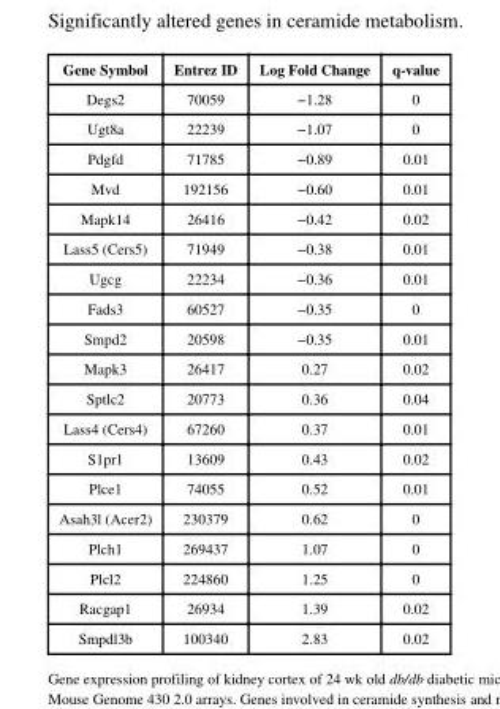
<table><thead><tr><td>Gene Symbol</td><td>Entrez ID</td><td>Log Fold Change</td><td>q-value</td></tr></thead><tbody><tr><td>Degs2</td><td>70059</td><td>−1.28</td><td>0</td></tr><tr><td>Ugt8a</td><td>22239</td><td>−1.07</td><td>0</td></tr><tr><td>Pdgfd</td><td>71785</td><td>−0.89</td><td>0.01</td></tr><tr><td>Mvd</td><td>192156</td><td>−0.60</td><td>0.01</td></tr><tr><td>Mapk14</td><td>26416</td><td>−0.42</td><td>0.02</td></tr><tr><td>Lass5 (Cers5)</td><td>71949</td><td>−0.38</td><td>0.01</td></tr><tr><td>Ugcg</td><td>22234</td><td>−0.36</td><td>0.01</td></tr><tr><td>Fads3</td><td>60527</td><td>−0.35</td><td>0</td></tr><tr><td>Smpd2</td><td>20598</td><td>−0.35</td><td>0.01</td></tr><tr><td>Mapk3</td><td>26417</td><td>0.27</td><td>0.02</td></tr><tr><td>Sptlc2</td><td>20773</td><td>0.36</td><td>0.04</td></tr><tr><td>Lass4 (Cers4)</td><td>67260</td><td>0.37</td><td>0.01</td></tr><tr><td>S1pr1</td><td>13609</td><td>0.43</td><td>0.02</td></tr><tr><td>Plce1</td><td>74055</td><td>0.52</td><td>0.01</td></tr><tr><td>Asah3l (Acer2)</td><td>230379</td><td>0.62</td><td>0</td></tr><tr><td>Plch1</td><td>269437</td><td>1.07</td><td>0</td></tr><tr><td>Plcl2</td><td>224860</td><td>1.25</td><td>0</td></tr><tr><td>Racgap1</td><td>26934</td><td>1.39</td><td>0.02</td></tr><tr><td>Smpdl3b</td><td>100340</td><td>2.83</td><td>0.02</td></tr></tbody></table>